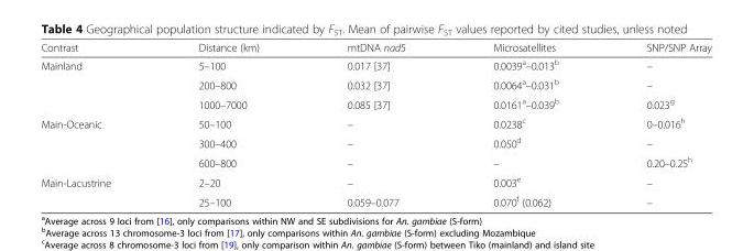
<table><thead><tr><td>Contrast</td><td>Distance (km)</td><td>mtDNA nad5</td><td>Microsatellites</td><td>SNP/SNP Array</td></tr></thead><tbody><tr><td rowspan="3">Mainland</td><td>5–100</td><td>0.017 [37]</td><td>0.0039<sup>a</sup>–0.013<sup>b</sup></td><td>–</td></tr><tr><td>200–800</td><td>0.032 [37]</td><td>0.0064<sup>a</sup>–0.031<sup>b</sup></td><td>–</td></tr><tr><td>1000–7000</td><td>0.085 [37]</td><td>0.0161<sup>a</sup>–0.039<sup>b</sup></td><td>0.023<sup>g</sup></td></tr><tr><td rowspan="3">Main-Oceanic</td><td>50–100</td><td>–</td><td>0.0238<sup>c</sup></td><td>0–0.016<sup>h</sup></td></tr><tr><td>300–400</td><td>–</td><td>0.050<sup>d</sup></td><td>–</td></tr><tr><td>600–800</td><td>–</td><td>–</td><td>0.20–0.25<sup>h</sup></td></tr><tr><td rowspan="2">Main-Lacustrine</td><td>2–20</td><td>–</td><td>0.003<sup>e</sup></td><td>–</td></tr><tr><td>25–100</td><td>0.059–0.077</td><td>0.070<sup>f</sup> (0.062)</td><td>–</td></tr></tbody></table>